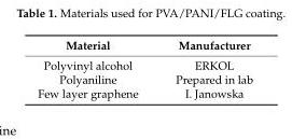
<table><thead><tr><td>Material</td><td>Manufacturer</td></tr></thead><tbody><tr><td>Polyvinyl alcohol</td><td>ERKOL</td></tr><tr><td>Polyaniline</td><td>Prepared in lab</td></tr><tr><td>Few layer graphene</td><td>I. Janowska</td></tr></tbody></table>